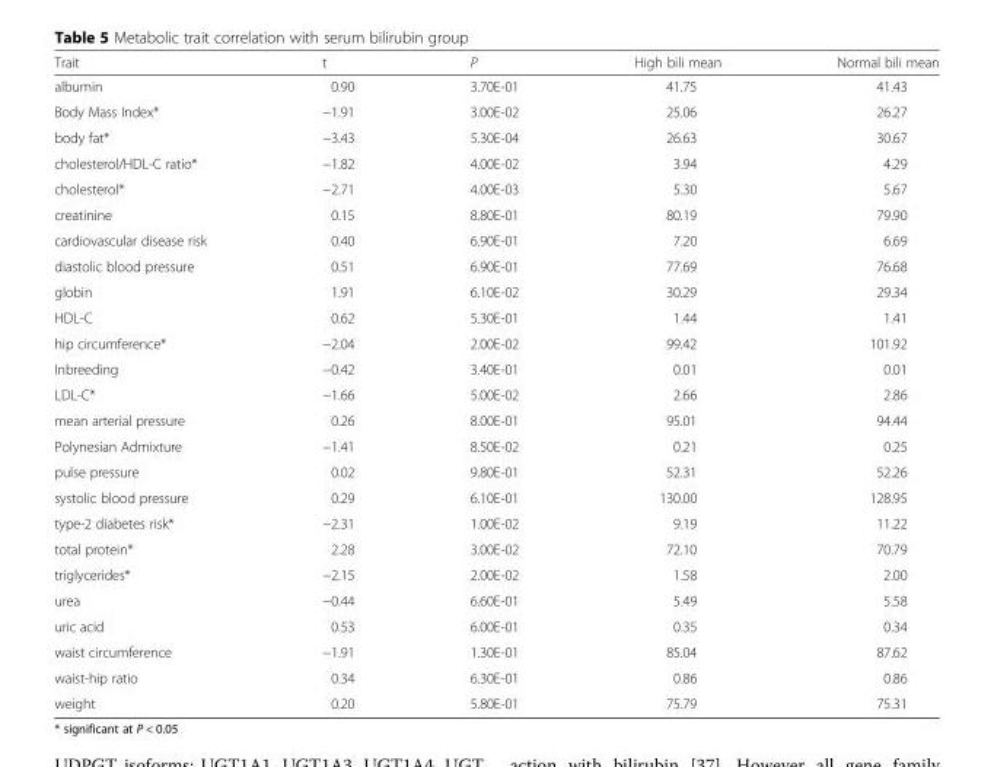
<table><thead><tr><td>Trait</td><td>t</td><td>P</td><td>High bili mean</td><td>Normal bili mean</td></tr></thead><tbody><tr><td>albumin</td><td>0.90</td><td>3.70E-01</td><td>41.75</td><td>41.43</td></tr><tr><td>Body Mass Index*</td><td>−1.91</td><td>3.00E-02</td><td>25.06</td><td>26.27</td></tr><tr><td>body fat*</td><td>−3.43</td><td>5.30E-04</td><td>26.63</td><td>30.67</td></tr><tr><td>cholesterol/HDL-C ratio*</td><td>−1.82</td><td>4.00E-02</td><td>3.94</td><td>4.29</td></tr><tr><td>cholesterol*</td><td>−2.71</td><td>4.00E-03</td><td>5.30</td><td>5.67</td></tr><tr><td>creatinine</td><td>0.15</td><td>8.80E-01</td><td>80.19</td><td>79.90</td></tr><tr><td>cardiovascular disease risk</td><td>0.40</td><td>6.90E-01</td><td>7.20</td><td>6.69</td></tr><tr><td>diastolic blood pressure</td><td>0.51</td><td>6.90E-01</td><td>77.69</td><td>76.68</td></tr><tr><td>globin</td><td>1.91</td><td>6.10E-02</td><td>30.29</td><td>29.34</td></tr><tr><td>HDL-C</td><td>0.62</td><td>5.30E-01</td><td>1.44</td><td>1.41</td></tr><tr><td>hip circumference*</td><td>−2.04</td><td>2.00E-02</td><td>99.42</td><td>101.92</td></tr><tr><td>Inbreeding</td><td>−0.42</td><td>3.40E-01</td><td>0.01</td><td>0.01</td></tr><tr><td>LDL-C*</td><td>−1.66</td><td>5.00E-02</td><td>2.66</td><td>2.86</td></tr><tr><td>mean arterial pressure</td><td>0.26</td><td>8.00E-01</td><td>95.01</td><td>94.44</td></tr><tr><td>Polynesian Admixture</td><td>−1.41</td><td>8.50E-02</td><td>0.21</td><td>0.25</td></tr><tr><td>pulse pressure</td><td>0.02</td><td>9.80E-01</td><td>52.31</td><td>52.26</td></tr><tr><td>systolic blood pressure</td><td>0.29</td><td>6.10E-01</td><td>130.00</td><td>128.95</td></tr><tr><td>type-2 diabetes risk*</td><td>−2.31</td><td>1.00E-02</td><td>9.19</td><td>11.22</td></tr><tr><td>total protein*</td><td>2.28</td><td>3.00E-02</td><td>72.10</td><td>70.79</td></tr><tr><td>triglycerides*</td><td>−2.15</td><td>2.00E-02</td><td>1.58</td><td>2.00</td></tr><tr><td>urea</td><td>−0.44</td><td>6.60E-01</td><td>5.49</td><td>5.58</td></tr><tr><td>uric acid</td><td>0.53</td><td>6.00E-01</td><td>0.35</td><td>0.34</td></tr><tr><td>waist circumference</td><td>−1.91</td><td>1.30E-01</td><td>85.04</td><td>87.62</td></tr><tr><td>waist-hip ratio</td><td>0.34</td><td>6.30E-01</td><td>0.86</td><td>0.86</td></tr><tr><td>weight</td><td>0.20</td><td>5.80E-01</td><td>75.79</td><td>75.31</td></tr></tbody></table>